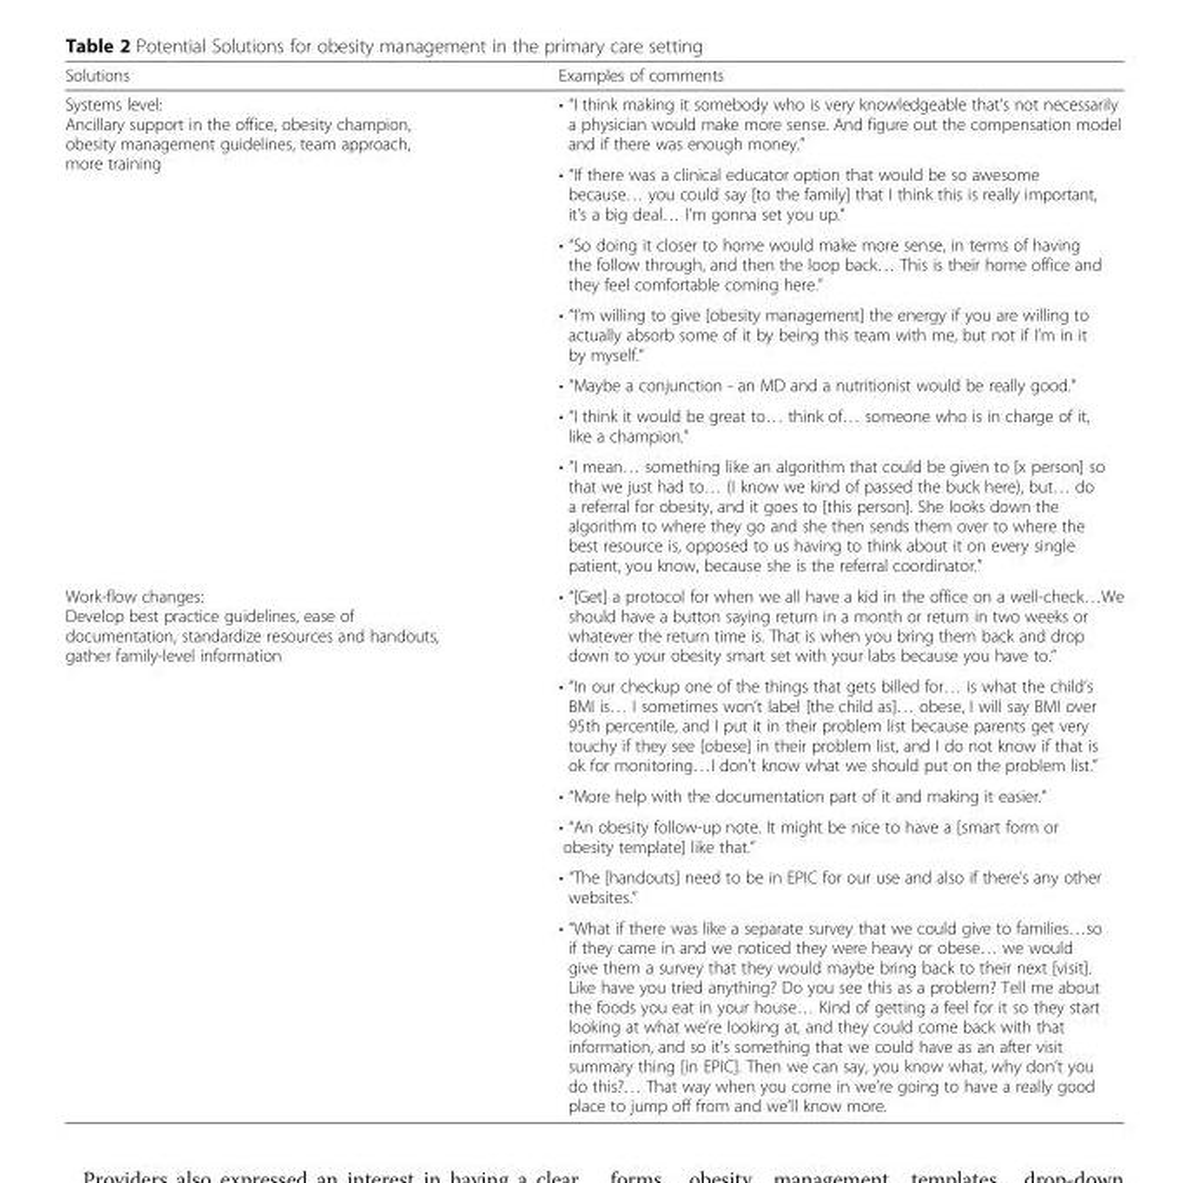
<table><thead><tr><td>Solutions</td><td>Examples of comments</td></tr></thead><tbody><tr><td rowspan="7">Systems level: Ancillary support in the office, obesity champion, obesity management guidelines, team approach, more training</td><td>• “I think making it somebody who is very knowledgeable that’s not necessarily a physician would make more sense. And figure out the compensation model and if there was enough money.”</td></tr><tr><td>• “If there was a clinical educator option that would be so awesome because… you could say [to the family] that I think this is really important, it’s a big deal… I’m gonna set you up.”</td></tr><tr><td>• “So doing it closer to home would make more sense, in terms of having the follow through, and then the loop back… This is their home office and they feel comfortable coming here.”</td></tr><tr><td>• “I’m willing to give [obesity management] the energy if you are willing to actually absorb some of it by being this team with me, but not if I’m in it by myself.”</td></tr><tr><td>• “Maybe a conjunction - an MD and a nutritionist would be really good.”</td></tr><tr><td>• “I think it would be great to… think of… someone who is in charge of it, like a champion.”</td></tr><tr><td>• “I mean… something like an algorithm that could be given to [x person] so that we just had to… (I know we kind of passed the buck here), but… do a referral for obesity, and it goes to [this person]. She looks down the algorithm to where they go and she then sends them over to where the best resource is, opposed to us having to think about it on every single patient, you know, because she is the referral coordinator.”</td></tr><tr><td rowspan="6">Work-flow changes: Develop best practice guidelines, ease of documentation, standardize resources and handouts, gather family-level information</td><td>• “[Get] a protocol for when we all have a kid in the office on a well-check…We should have a button saying return in a month or return in two weeks or whatever the return time is. That is when you bring them back and drop down to your obesity smart set with your labs because you have to.”</td></tr><tr><td>• “In our checkup one of the things that gets billed for… is what the child’s BMI is… I sometimes won’t label [the child as]… obese, I will say BMI over 95th percentile, and I put it in their problem list because parents get very touchy if they see [obese] in their problem list, and I do not know if that is ok for monitoring…I don’t know what we should put on the problem list.”</td></tr><tr><td>• “More help with the documentation part of it and making it easier.”</td></tr><tr><td>• “An obesity follow-up note. It might be nice to have a [smart form or obesity template] like that.”</td></tr><tr><td>• “The [handouts] need to be in EPIC for our use and also if there’s any other websites.”</td></tr><tr><td>• “What if there was like a separate survey that we could give to families…so if they came in and we noticed they were heavy or obese… we would give them a survey that they would maybe bring back to their next [visit]. Like have you tried anything? Do you see this as a problem? Tell me about the foods you eat in your house… Kind of getting a feel for it so they start looking at what we’re looking at, and they could come back with that information, and so it’s something that we could have as an after visit summary thing [in EPIC]. Then we can say, you know what, why don’t you do this?… That way when you come in we’re going to have a really good place to jump off from and we’ll know more.</td></tr></tbody></table>